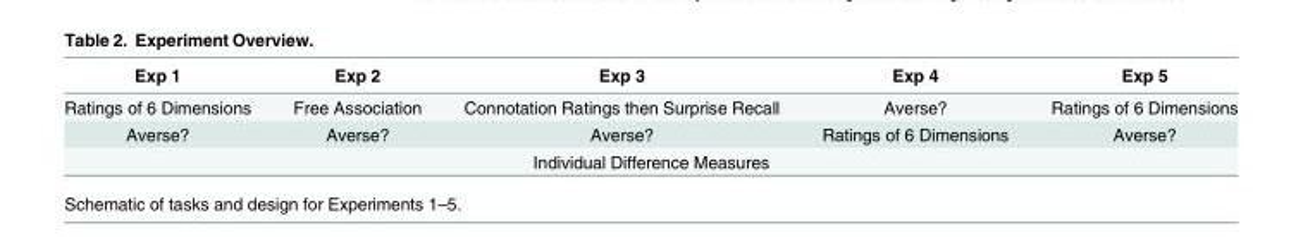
<table><thead><tr><td>Exp 1</td><td>Exp 2</td><td>Exp 3</td><td>Exp 4</td><td>Exp 5</td></tr></thead><tbody><tr><td>Ratings of 6 Dimensions</td><td>Free Association</td><td>Connotation Ratings then Surprise Recall</td><td>Averse?</td><td>Ratings of 6 Dimensions</td></tr><tr><td>Averse?</td><td>Averse?</td><td>Averse?</td><td>Ratings of 6 Dimensions</td><td>Averse?</td></tr><tr><td colspan="5">Individual Difference Measures</td></tr></tbody></table>